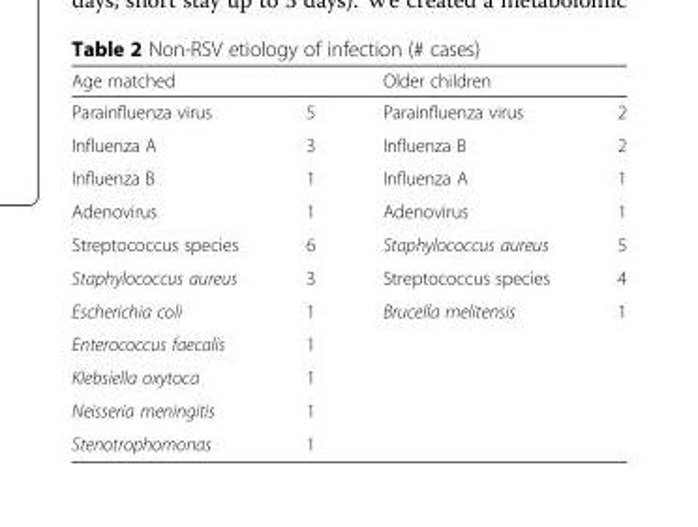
<table><thead><tr><td colspan="2">Age matched</td><td colspan="2">Older children</td></tr><tr><td>Parainfluenza virus</td><td>5</td><td>Parainfluenza virus</td><td>2</td></tr></thead><tbody><tr><td>Influenza A</td><td>3</td><td>Influenza B</td><td>2</td></tr><tr><td>Influenza B</td><td>1</td><td>Influenza A</td><td>1</td></tr><tr><td>Adenovirus</td><td>1</td><td>Adenovirus</td><td>1</td></tr><tr><td>Streptococcus species</td><td>6</td><td>Staphylococcus aureus</td><td>5</td></tr><tr><td>Staphylococcus aureus</td><td>3</td><td>Streptococcus species</td><td>4</td></tr><tr><td>Escherichia coli</td><td>1</td><td>Brucella melitensis</td><td>1</td></tr><tr><td>Enterococcus faecalis</td><td>1</td><td></td><td></td></tr><tr><td>Klebsiella oxytoca</td><td>1</td><td></td><td></td></tr><tr><td>Neisseria meningitis</td><td>1</td><td></td><td></td></tr><tr><td>Stenotrophomonas</td><td>1</td><td></td><td></td></tr></tbody></table>